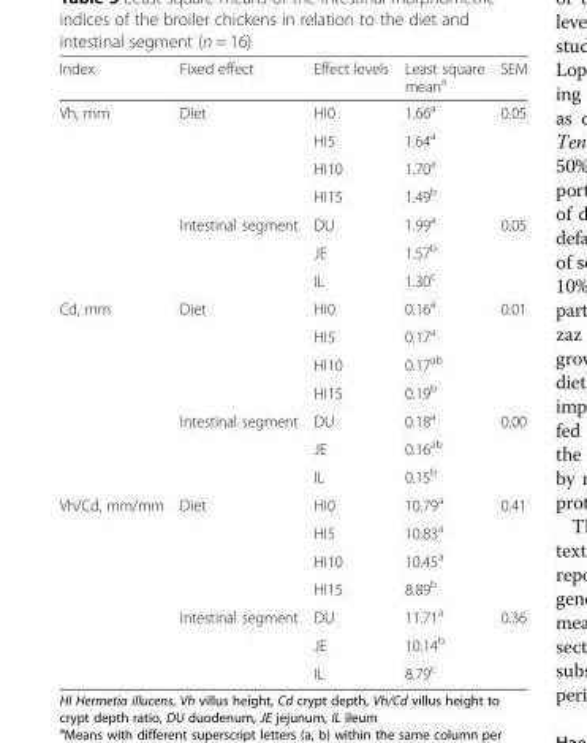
<table><thead><tr><td>Index</td><td>Fixed effect</td><td>Effect levels</td><td>Least square mean<sup>a</sup></td><td>SEM</td></tr></thead><tbody><tr><td rowspan="7">Vh, mm</td><td rowspan="4">Diet</td><td>HI0</td><td>1.66<sup>a</sup></td><td rowspan="4">0.05</td></tr><tr><td>HI5</td><td>1.64<sup>a</sup></td></tr><tr><td>HI10</td><td>1.70<sup>a</sup></td></tr><tr><td>HI15</td><td>1.49<sup>b</sup></td></tr><tr><td rowspan="3">Intestinal segment</td><td>DU</td><td>1.99<sup>a</sup></td><td rowspan="3">0.05</td></tr><tr><td>JE</td><td>1.57<sup>b</sup></td></tr><tr><td>IL</td><td>1.30<sup>c</sup></td></tr><tr><td rowspan="7">Cd, mm</td><td rowspan="4">Diet</td><td>HI0</td><td>0.16<sup>a</sup></td><td rowspan="4">0.01</td></tr><tr><td>HI5</td><td>0.17<sup>a</sup></td></tr><tr><td>HI10</td><td>0.17<sup>ab</sup></td></tr><tr><td>HI15</td><td>0.19<sup>b</sup></td></tr><tr><td rowspan="3">Intestinal segment</td><td>DU</td><td>0.18<sup>a</sup></td><td rowspan="3">0.00</td></tr><tr><td>JE</td><td>0.16<sup>ab</sup></td></tr><tr><td>IL</td><td>0.15<sup>b</sup></td></tr><tr><td rowspan="7">Vh/Cd, mm/mm</td><td rowspan="4">Diet</td><td>HI0</td><td>10.79<sup>a</sup></td><td rowspan="4">0.41</td></tr><tr><td>HI5</td><td>10.83<sup>a</sup></td></tr><tr><td>HI10</td><td>10.45<sup>a</sup></td></tr><tr><td>HI15</td><td>8.89<sup>b</sup></td></tr><tr><td rowspan="3">Intestinal segment</td><td>DU</td><td>11.71<sup>a</sup></td><td rowspan="3">0.36</td></tr><tr><td>JE</td><td>10.14<sup>b</sup></td></tr><tr><td>IL</td><td>8.79<sup>c</sup></td></tr></tbody></table>